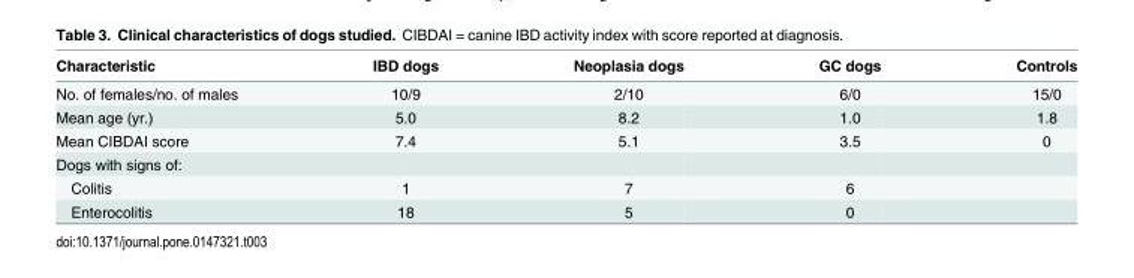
<table><thead><tr><td>Characteristic</td><td>IBD dogs</td><td>Neoplasia dogs</td><td>GC dogs</td><td>Controls</td></tr></thead><tbody><tr><td>No. of females/no. of males</td><td>10/9</td><td>2/10</td><td>6/0</td><td>15/0</td></tr><tr><td>Mean age (yr.)</td><td>5.0</td><td>8.2</td><td>1.0</td><td>1.8</td></tr><tr><td>Mean CIBDAI score</td><td>7.4</td><td>5.1</td><td>3.5</td><td>0</td></tr><tr><td colspan="5">Dogs with signs of:</td></tr><tr><td>Colitis</td><td>1</td><td>7</td><td>6</td><td></td></tr><tr><td>Enterocolitis</td><td>18</td><td>5</td><td>0</td><td></td></tr></tbody></table>